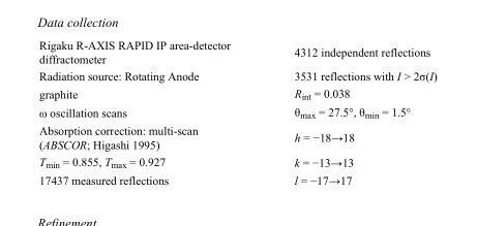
<table><tbody><tr><td>Rigaku R-AXIS RAPID IP area-detector diffractometer</td><td>4312 independent reflections</td></tr><tr><td>Radiation source: Rotating Anode</td><td>3531 reflections with I &gt; 2σ(I)</td></tr><tr><td>graphite</td><td>R<sub>int</sub> = 0.038</td></tr><tr><td>ω oscillation scans</td><td>θ<sub>max</sub> = 27.5°, θ<sub>min</sub> = 1.5°</td></tr><tr><td>Absorption correction: multi-scan (ABSCOR; Higashi 1995)</td><td>h = −18→18</td></tr><tr><td>T<sub>min</sub> = 0.855, T<sub>max</sub> = 0.927</td><td>k = −13→13</td></tr><tr><td>17437 measured reflections</td><td>l = −17→17</td></tr></tbody></table>